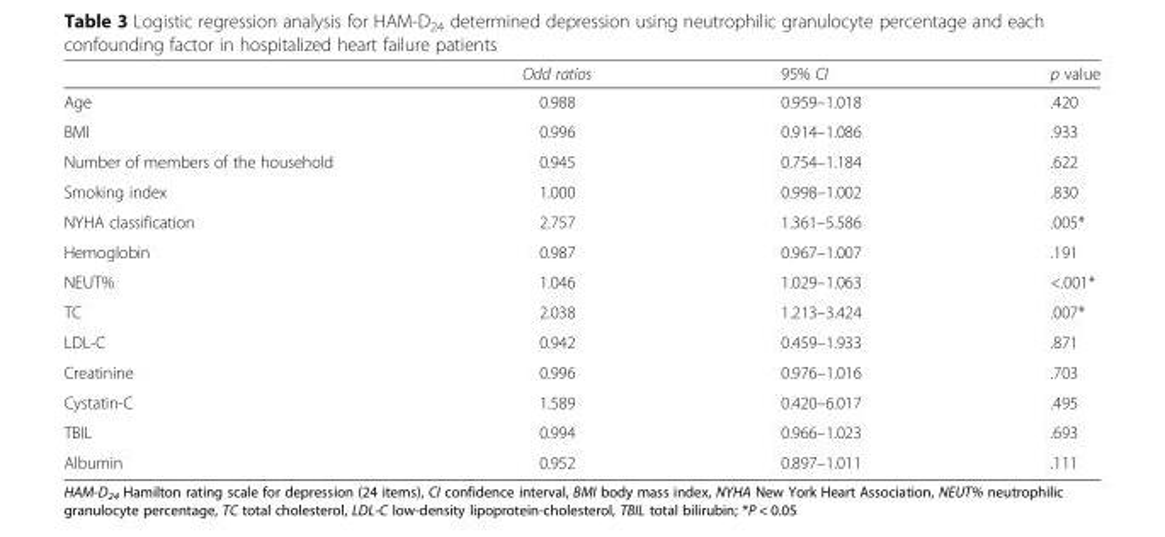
<table><thead><tr><td></td><td>Odd ratios</td><td>95% CI</td><td>p value</td></tr></thead><tbody><tr><td>Age</td><td>0.988</td><td>0.959–1.018</td><td>.420</td></tr><tr><td>BMI</td><td>0.996</td><td>0.914–1.086</td><td>.933</td></tr><tr><td>Number of members of the household</td><td>0.945</td><td>0.754–1.184</td><td>.622</td></tr><tr><td>Smoking index</td><td>1.000</td><td>0.998–1.002</td><td>.830</td></tr><tr><td>NYHA classification</td><td>2.757</td><td>1.361–5.586</td><td>.005*</td></tr><tr><td>Hemoglobin</td><td>0.987</td><td>0.967–1.007</td><td>.191</td></tr><tr><td>NEUT%</td><td>1.046</td><td>1.029–1.063</td><td>&lt;.001*</td></tr><tr><td>TC</td><td>2.038</td><td>1.213–3.424</td><td>.007*</td></tr><tr><td>LDL-C</td><td>0.942</td><td>0.459–1.933</td><td>.871</td></tr><tr><td>Creatinine</td><td>0.996</td><td>0.976–1.016</td><td>.703</td></tr><tr><td>Cystatin-C</td><td>1.589</td><td>0.420–6.017</td><td>.495</td></tr><tr><td>TBIL</td><td>0.994</td><td>0.966–1.023</td><td>.693</td></tr><tr><td>Albumin</td><td>0.952</td><td>0.897–1.011</td><td>.111</td></tr></tbody></table>